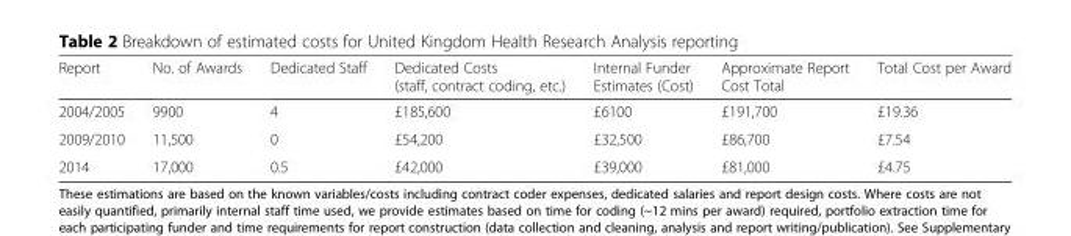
<table><thead><tr><td>Report</td><td>No. of Awards</td><td>Dedicated Staff</td><td>Dedicated Costs (staff, contract coding, etc.)</td><td>Internal Funder Estimates (Cost)</td><td>Approximate Report Cost Total</td><td>Total Cost per Award</td></tr></thead><tbody><tr><td>2004/2005</td><td>9900</td><td>4</td><td>£185,600</td><td>£6100</td><td>£191,700</td><td>£19.36</td></tr><tr><td>2009/2010</td><td>11,500</td><td>0</td><td>£54,200</td><td>£32,500</td><td>£86,700</td><td>£7.54</td></tr><tr><td>2014</td><td>17,000</td><td>0.5</td><td>£42,000</td><td>£39,000</td><td>£81,000</td><td>£4.75</td></tr></tbody></table>